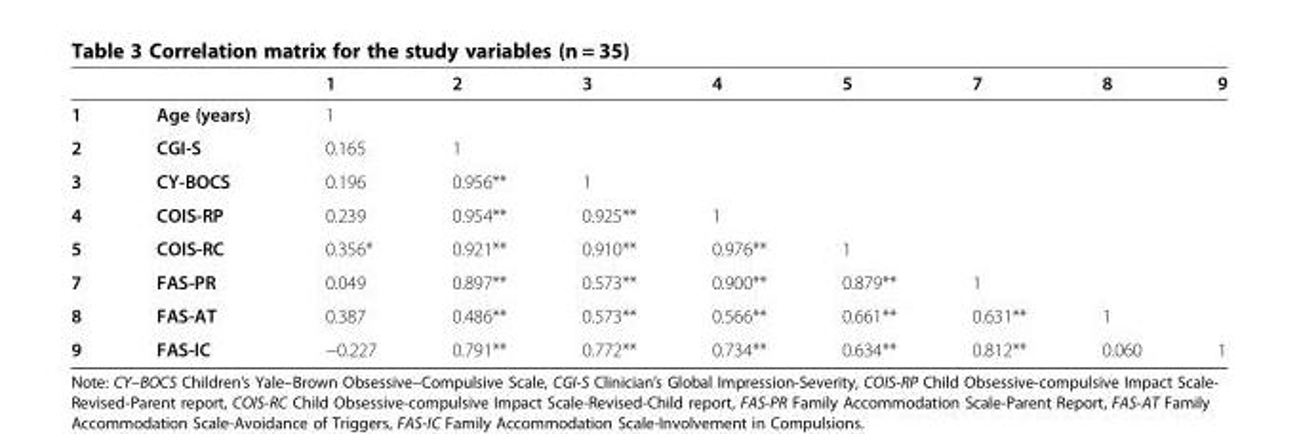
<table><thead><tr><td></td><td></td><td>1</td><td>2</td><td>3</td><td>4</td><td>5</td><td>7</td><td>8</td><td>9</td></tr></thead><tbody><tr><td>1</td><td>Age (years)</td><td>1</td><td></td><td></td><td></td><td></td><td></td><td></td><td></td></tr><tr><td>2</td><td>CGI-S</td><td>0.165</td><td>1</td><td></td><td></td><td></td><td></td><td></td><td></td></tr><tr><td>3</td><td>CY-BOCS</td><td>0.196</td><td>0.956**</td><td>1</td><td></td><td></td><td></td><td></td><td></td></tr><tr><td>4</td><td>COIS-RP</td><td>0.239</td><td>0.954**</td><td>0.925**</td><td>1</td><td></td><td></td><td></td><td></td></tr><tr><td>5</td><td>COIS-RC</td><td>0.356*</td><td>0.921**</td><td>0.910**</td><td>0.976**</td><td>1</td><td></td><td></td><td></td></tr><tr><td>7</td><td>FAS-PR</td><td>0.049</td><td>0.897**</td><td>0.573**</td><td>0.900**</td><td>0.879**</td><td>1</td><td></td><td></td></tr><tr><td>8</td><td>FAS-AT</td><td>0.387</td><td>0.486**</td><td>0.573**</td><td>0.566**</td><td>0.661**</td><td>0.631**</td><td>1</td><td></td></tr><tr><td>9</td><td>FAS-IC</td><td>−0.227</td><td>0.791**</td><td>0.772**</td><td>0.734**</td><td>0.634**</td><td>0.812**</td><td>0.060</td><td>1</td></tr></tbody></table>